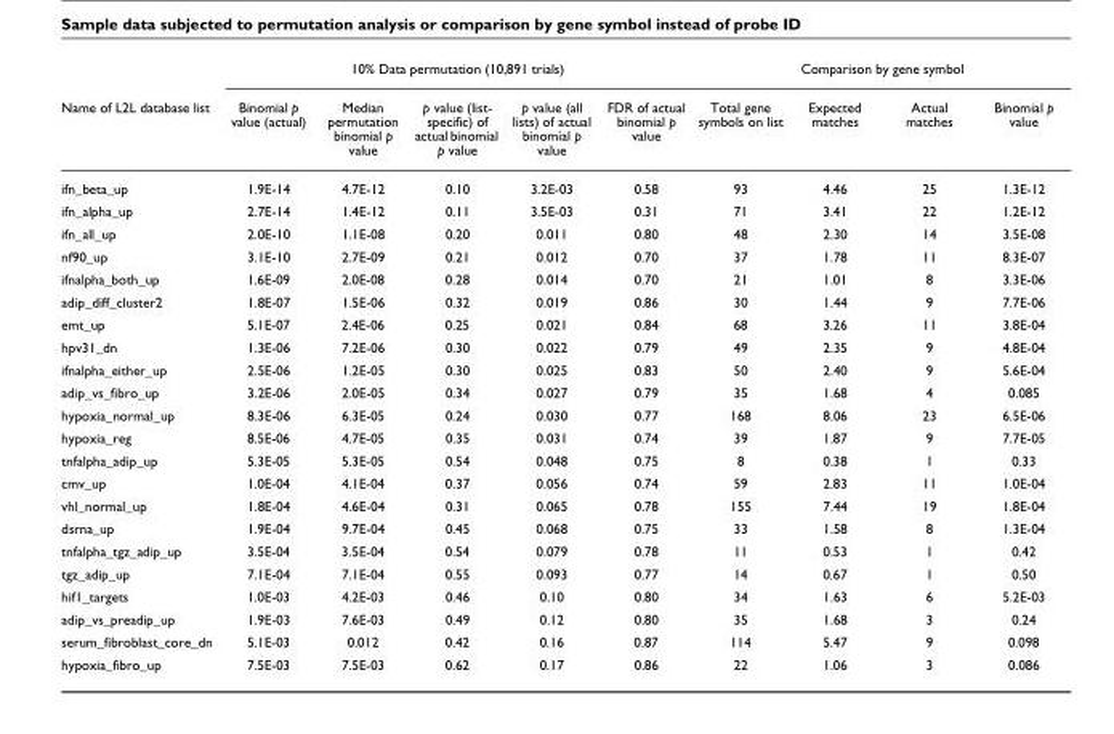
<table><thead><tr><td rowspan="2">Name of L2L database list</td><td colspan="5">10% Data permutation (10,891 trials)</td><td colspan="4">Comparison by gene symbol</td></tr><tr><td>Binomial p value (actual)</td><td>Median permutation binomial p value</td><td>p value (list- specific) of actual binomial p value</td><td>p value (all lists) of actual binomial p value</td><td>FDR of actual binomial p value</td><td>Total gene symbols on list</td><td>Expected matches</td><td>Actual matches</td><td>Binomial p value</td></tr></thead><tbody><tr><td>ifn_beta_up</td><td>1.9E-14</td><td>4.7E-12</td><td>0.10</td><td>3.2E-03</td><td>0.58</td><td>93</td><td>4.46</td><td>25</td><td>1.3E-12</td></tr><tr><td>ifn_alpha_up</td><td>2.7E-14</td><td>1.4E-12</td><td>0.11</td><td>3.5E-03</td><td>0.31</td><td>71</td><td>3.41</td><td>22</td><td>1.2E-12</td></tr><tr><td>ifn_all_up</td><td>2.0E-10</td><td>1.1E-08</td><td>0.20</td><td>0.011</td><td>0.80</td><td>48</td><td>2.30</td><td>14</td><td>3.5E-08</td></tr><tr><td>nf90_up</td><td>3.1E-10</td><td>2.7E-09</td><td>0.21</td><td>0.012</td><td>0.70</td><td>37</td><td>1.78</td><td>11</td><td>8.3E-07</td></tr><tr><td>ifnalpha_both_up</td><td>1.6E-09</td><td>2.0E-08</td><td>0.28</td><td>0.014</td><td>0.70</td><td>21</td><td>1.01</td><td>8</td><td>3.3E-06</td></tr><tr><td>adip_diff_cluster2</td><td>1.8E-07</td><td>1.5E-06</td><td>0.32</td><td>0.019</td><td>0.86</td><td>30</td><td>1.44</td><td>9</td><td>7.7E-06</td></tr><tr><td>emt_up</td><td>5.1E-07</td><td>2.4E-06</td><td>0.25</td><td>0.021</td><td>0.84</td><td>68</td><td>3.26</td><td>11</td><td>3.8E-04</td></tr><tr><td>hpv31_dn</td><td>1.3E-06</td><td>7.2E-06</td><td>0.30</td><td>0.022</td><td>0.79</td><td>49</td><td>2.35</td><td>9</td><td>4.8E-04</td></tr><tr><td>ifnalpha_either_up</td><td>2.5E-06</td><td>1.2E-05</td><td>0.30</td><td>0.025</td><td>0.83</td><td>50</td><td>2.40</td><td>9</td><td>5.6E-04</td></tr><tr><td>adip_vs_fibro_up</td><td>3.2E-06</td><td>2.0E-05</td><td>0.34</td><td>0.027</td><td>0.79</td><td>35</td><td>1.68</td><td>4</td><td>0.085</td></tr><tr><td>hypoxia_normal_up</td><td>8.3E-06</td><td>6.3E-05</td><td>0.24</td><td>0.030</td><td>0.77</td><td>168</td><td>8.06</td><td>23</td><td>6.5E-06</td></tr><tr><td>hypoxia_reg</td><td>8.5E-06</td><td>4.7E-05</td><td>0.35</td><td>0.031</td><td>0.74</td><td>39</td><td>1.87</td><td>9</td><td>7.7E-05</td></tr><tr><td>tnfalpha_adip_up</td><td>5.3E-05</td><td>5.3E-05</td><td>0.54</td><td>0.048</td><td>0.75</td><td>8</td><td>0.38</td><td>1</td><td>0.33</td></tr><tr><td>cmv_up</td><td>1.0E-04</td><td>4.1E-04</td><td>0.37</td><td>0.056</td><td>0.74</td><td>59</td><td>2.83</td><td>11</td><td>1.0E-04</td></tr><tr><td>vhl_normal_up</td><td>1.8E-04</td><td>4.6E-04</td><td>0.31</td><td>0.065</td><td>0.78</td><td>155</td><td>7.44</td><td>19</td><td>1.8E-04</td></tr><tr><td>dsrna_up</td><td>1.9E-04</td><td>9.7E-04</td><td>0.45</td><td>0.068</td><td>0.75</td><td>33</td><td>1.58</td><td>8</td><td>1.3E-04</td></tr><tr><td>tnfalpha_tgz_adip_up</td><td>3.5E-04</td><td>3.5E-04</td><td>0.54</td><td>0.079</td><td>0.78</td><td>11</td><td>0.53</td><td>1</td><td>0.42</td></tr><tr><td>tgz_adip_up</td><td>7.1E-04</td><td>7.1E-04</td><td>0.55</td><td>0.093</td><td>0.77</td><td>14</td><td>0.67</td><td>1</td><td>0.50</td></tr><tr><td>hif1_targets</td><td>1.0E-03</td><td>4.2E-03</td><td>0.46</td><td>0.10</td><td>0.80</td><td>34</td><td>1.63</td><td>6</td><td>5.2E-03</td></tr><tr><td>adip_vs_preadip_up</td><td>1.9E-03</td><td>7.6E-03</td><td>0.49</td><td>0.12</td><td>0.80</td><td>35</td><td>1.68</td><td>3</td><td>0.24</td></tr><tr><td>serum_fibroblast_core_dn</td><td>5.1E-03</td><td>0.012</td><td>0.42</td><td>0.16</td><td>0.87</td><td>114</td><td>5.47</td><td>9</td><td>0.098</td></tr><tr><td>hypoxia_fibro_up</td><td>7.5E-03</td><td>7.5E-03</td><td>0.62</td><td>0.17</td><td>0.86</td><td>22</td><td>1.06</td><td>3</td><td>0.086</td></tr></tbody></table>